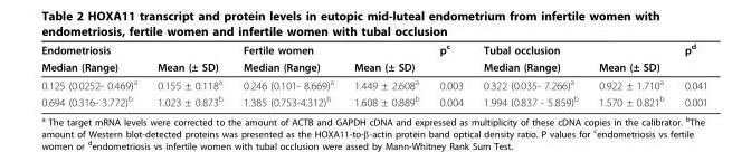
<table><thead><tr><td colspan="2">Endometriosis</td><td colspan="2">Fertile women</td><td rowspan="2">p<sup>c</sup></td><td colspan="2">Tubal occlusion</td><td rowspan="2">p<sup>d</sup></td></tr><tr><td>Median (Range)</td><td>Mean (± SD)</td><td>Median (Range)</td><td>Mean (± SD)</td><td>Median (Range)</td><td>Mean (± SD)</td></tr></thead><tbody><tr><td>0.125 (0.0252- 0.469)<sup>a</sup></td><td>0.155 ± 0.118<sup>a</sup></td><td>0.246 (0.101- 8.669)<sup>a</sup></td><td>1.449 ± 2.608<sup>a</sup></td><td>0.003</td><td>0.322 (0.035- 7.266)<sup>a</sup></td><td>0.922 ± 1.710<sup>a</sup></td><td>0.041</td></tr><tr><td>0.694 (0.316- 3.772)<sup>b</sup></td><td>1.023 ± 0.873<sup>b</sup></td><td>1.385 (0.753-4.312)<sup>b</sup></td><td>1.608 ± 0.889<sup>b</sup></td><td>0.004</td><td>1.994 (0.837 - 5.859)<sup>b</sup></td><td>1.570 ± 0.821<sup>b</sup></td><td>0.001</td></tr></tbody></table>